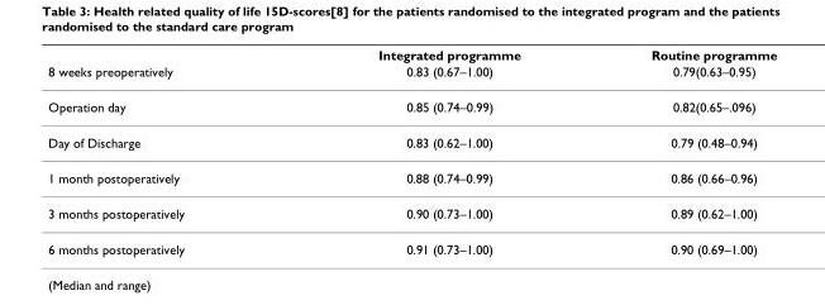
<table><thead><tr><td rowspan="2">8 weeks preoperatively</td><td rowspan="2">Integrated programme 0.83 (0.67–1.00)</td><td rowspan="2">Routine programme 0.79(0.63–0.95)</td></tr><tr></tr></thead><tbody><tr><td>Operation day</td><td>0.85 (0.74–0.99)</td><td>0.82(0.65–.096)</td></tr><tr><td>Day of Discharge</td><td>0.83 (0.62–1.00)</td><td>0.79 (0.48–0.94)</td></tr><tr><td>1 month postoperatively</td><td>0.88 (0.74–0.99)</td><td>0.86 (0.66–0.96)</td></tr><tr><td>3 months postoperatively</td><td>0.90 (0.73–1.00)</td><td>0.89 (0.62–1.00)</td></tr><tr><td>6 months postoperatively</td><td>0.91 (0.73–1.00)</td><td>0.90 (0.69–1.00)</td></tr></tbody></table>